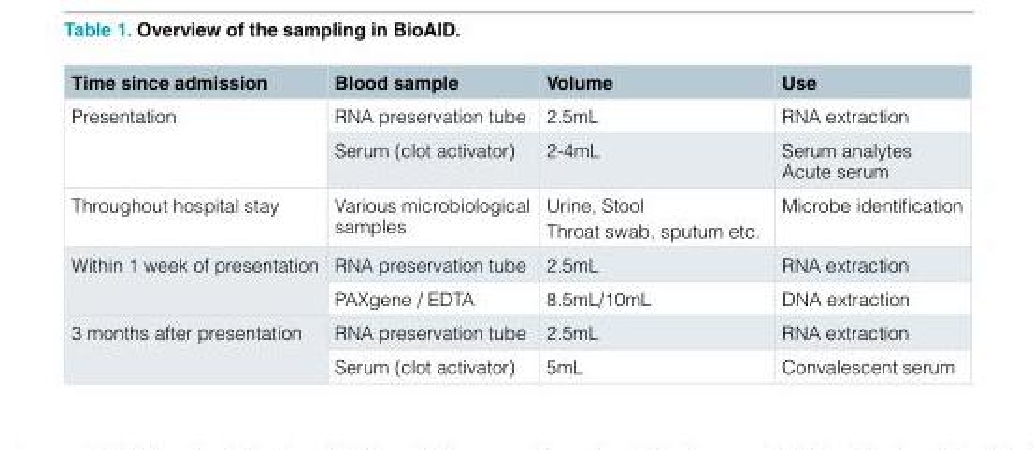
<table><thead><tr><td>Time since admission</td><td>Blood sample</td><td>Volume</td><td>Use</td></tr></thead><tbody><tr><td rowspan="2">Presentation</td><td>RNA preservation tube</td><td>2.5mL</td><td>RNA extraction</td></tr><tr><td>Serum (clot activator)</td><td>2-4mL</td><td>Serum analytes Acute serum</td></tr><tr><td>Throughout hospital stay</td><td>Various microbiological samples</td><td>Urine, Stool Throat swab, sputum etc.</td><td>Microbe identification</td></tr><tr><td rowspan="2">Within 1 week of presentation</td><td>RNA preservation tube</td><td>2.5mL</td><td>RNA extraction</td></tr><tr><td>PAXgene / EDTA</td><td>8.5mL/10mL</td><td>DNA extraction</td></tr><tr><td rowspan="2">3 months after presentation</td><td>RNA preservation tube</td><td>2.5mL</td><td>RNA extraction</td></tr><tr><td>Serum (clot activator)</td><td>5mL</td><td>Convalescent serum</td></tr></tbody></table>